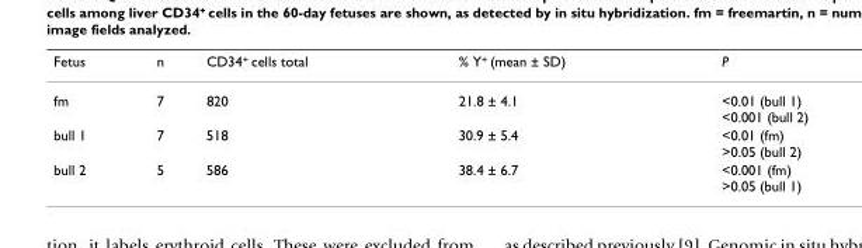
<table><thead><tr><td>Fetus</td><td>n</td><td>CD34<sup>+</sup> cells total</td><td>% Y<sup>+</sup> (mean ± SD)</td><td>P</td></tr></thead><tbody><tr><td>fm</td><td>7</td><td>820</td><td>21.8 ± 4.1</td><td>&lt;0.01 (bull 1) &lt;0.001 (bull 2)</td></tr><tr><td>bull 1</td><td>7</td><td>518</td><td>30.9 ± 5.4</td><td>&lt;0.01 (fm) &gt;0.05 (bull 2)</td></tr><tr><td>bull 2</td><td>5</td><td>586</td><td>38.4 ± 6.7</td><td>&lt;0.001 (fm) &gt;0.05 (bull 1)</td></tr></tbody></table>